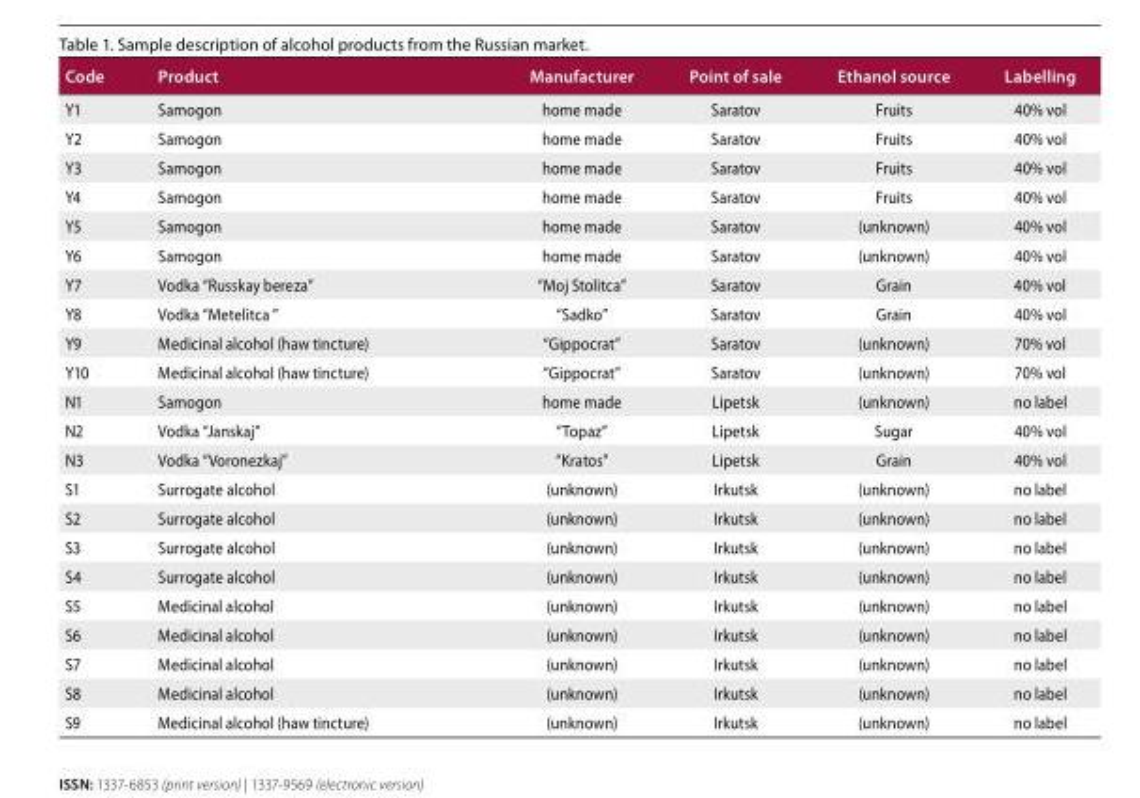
<table><thead><tr><td>Code</td><td>Product</td><td>Manufacturer</td><td>Point of sale</td><td>Ethanol source</td><td>Labelling</td></tr></thead><tbody><tr><td>Y1</td><td>Samogon</td><td>home made</td><td>Saratov</td><td>Fruits</td><td>40% vol</td></tr><tr><td>Y2</td><td>Samogon</td><td>home made</td><td>Saratov</td><td>Fruits</td><td>40% vol</td></tr><tr><td>Y3</td><td>Samogon</td><td>home made</td><td>Saratov</td><td>Fruits</td><td>40% vol</td></tr><tr><td>Y4</td><td>Samogon</td><td>home made</td><td>Saratov</td><td>Fruits</td><td>40% vol</td></tr><tr><td>Y5</td><td>Samogon</td><td>home made</td><td>Saratov</td><td>(unknown)</td><td>40% vol</td></tr><tr><td>Y6</td><td>Samogon</td><td>home made</td><td>Saratov</td><td>(unknown)</td><td>40% vol</td></tr><tr><td>Y7</td><td>Vodka “Russkay bereza”</td><td>“Moj Stolitca”</td><td>Saratov</td><td>Grain</td><td>40% vol</td></tr><tr><td>Y8</td><td>Vodka “Metelitca ”</td><td>“Sadko”</td><td>Saratov</td><td>Grain</td><td>40% vol</td></tr><tr><td>Y9</td><td>Medicinal alcohol (haw tincture)</td><td>“Gippocrat”</td><td>Saratov</td><td>(unknown)</td><td>70% vol</td></tr><tr><td>Y10</td><td>Medicinal alcohol (haw tincture)</td><td>“Gippocrat”</td><td>Saratov</td><td>(unknown)</td><td>70% vol</td></tr><tr><td>N1</td><td>Samogon</td><td>home made</td><td>Lipetsk</td><td>(unknown)</td><td>no label</td></tr><tr><td>N2</td><td>Vodka “Janskaj”</td><td>“Topaz”</td><td>Lipetsk</td><td>Sugar</td><td>40% vol</td></tr><tr><td>N3</td><td>Vodka “Voronezkaj”</td><td>“Kratos”</td><td>Lipetsk</td><td>Grain</td><td>40% vol</td></tr><tr><td>S1</td><td>Surrogate alcohol</td><td>(unknown)</td><td>Irkutsk</td><td>(unknown)</td><td>no label</td></tr><tr><td>S2</td><td>Surrogate alcohol</td><td>(unknown)</td><td>Irkutsk</td><td>(unknown)</td><td>no label</td></tr><tr><td>S3</td><td>Surrogate alcohol</td><td>(unknown)</td><td>Irkutsk</td><td>(unknown)</td><td>no label</td></tr><tr><td>S4</td><td>Surrogate alcohol</td><td>(unknown)</td><td>Irkutsk</td><td>(unknown)</td><td>no label</td></tr><tr><td>S5</td><td>Medicinal alcohol</td><td>(unknown)</td><td>Irkutsk</td><td>(unknown)</td><td>no label</td></tr><tr><td>S6</td><td>Medicinal alcohol</td><td>(unknown)</td><td>Irkutsk</td><td>(unknown)</td><td>no label</td></tr><tr><td>S7</td><td>Medicinal alcohol</td><td>(unknown)</td><td>Irkutsk</td><td>(unknown)</td><td>no label</td></tr><tr><td>S8</td><td>Medicinal alcohol</td><td>(unknown)</td><td>Irkutsk</td><td>(unknown)</td><td>no label</td></tr><tr><td>S9</td><td>Medicinal alcohol (haw tincture)</td><td>(unknown)</td><td>Irkutsk</td><td>(unknown)</td><td>no label</td></tr></tbody></table>